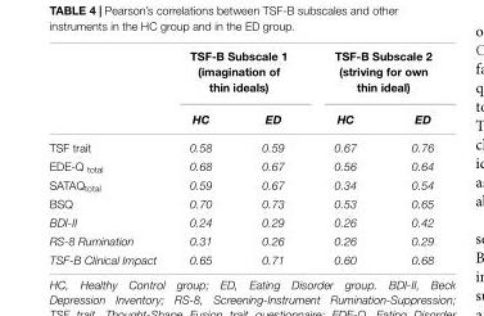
<table><thead><tr><td rowspan="2"></td><td colspan="2">TSF-B Subscale 1 (imagination of thin ideals)</td><td colspan="2">TSF-B Subscale 2 (striving for own thin ideal)</td></tr><tr><td>HC</td><td>ED</td><td>HC</td><td>ED</td></tr></thead><tbody><tr><td>TSF trait</td><td>0.58</td><td>0.59</td><td>0.67</td><td>0.76</td></tr><tr><td>EDE-Q <sub>total</sub></td><td>0.68</td><td>0.67</td><td>0.56</td><td>0.64</td></tr><tr><td>SATAQ<sub>total</sub></td><td>0.59</td><td>0.67</td><td>0.34</td><td>0.54</td></tr><tr><td>BSQ</td><td>0.70</td><td>0.73</td><td>0.53</td><td>0.65</td></tr><tr><td>BDI-II</td><td>0.24</td><td>0.29</td><td>0.26</td><td>0.42</td></tr><tr><td>RS-8 Rumination</td><td>0.31</td><td>0.26</td><td>0.26</td><td>0.29</td></tr><tr><td>TSF-B Clinical Impact</td><td>0.65</td><td>0.71</td><td>0.60</td><td>0.68</td></tr></tbody></table>